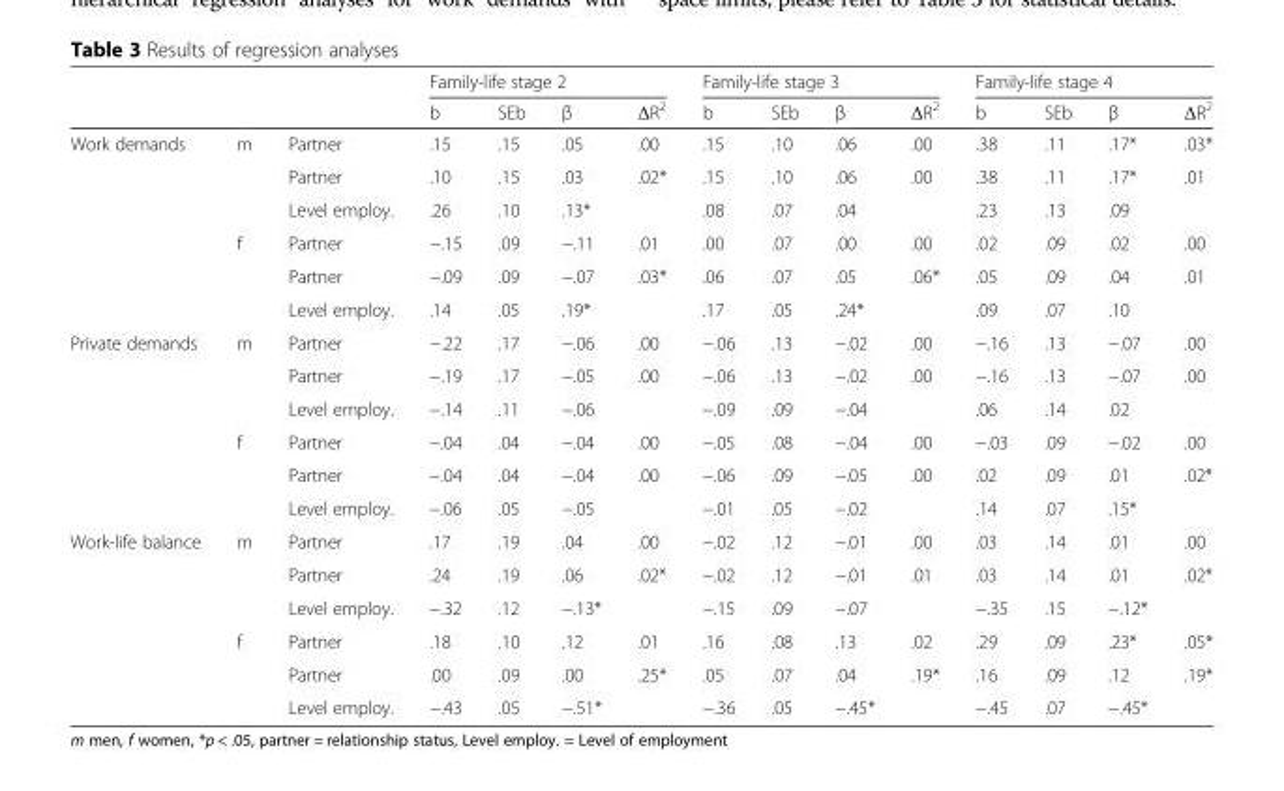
<table><thead><tr><td rowspan="2"></td><td rowspan="2"></td><td rowspan="2"></td><td colspan="4">Family-life stage 2</td><td colspan="4">Family-life stage 3</td><td colspan="4">Family-life stage 4</td></tr><tr><td>b</td><td>SEb</td><td>β</td><td>ΔR<sup>2</sup></td><td>b</td><td>SEb</td><td>β</td><td>ΔR<sup>2</sup></td><td>b</td><td>SEb</td><td>β</td><td>ΔR<sup>2</sup></td></tr></thead><tbody><tr><td rowspan="6">Work demands</td><td>m</td><td>Partner</td><td>.15</td><td>.15</td><td>.05</td><td>.00</td><td>.15</td><td>.10</td><td>.06</td><td>.00</td><td>.38</td><td>.11</td><td>.17*</td><td>.03*</td></tr><tr><td></td><td>Partner</td><td>.10</td><td>.15</td><td>.03</td><td>.02*</td><td>.15</td><td>.10</td><td>.06</td><td>.00</td><td>.38</td><td>.11</td><td>.17*</td><td>.01</td></tr><tr><td></td><td>Level employ.</td><td>.26</td><td>.10</td><td>.13*</td><td></td><td>.08</td><td>.07</td><td>.04</td><td></td><td>.23</td><td>.13</td><td>.09</td><td></td></tr><tr><td>f</td><td>Partner</td><td>−.15</td><td>.09</td><td>−.11</td><td>.01</td><td>.00</td><td>.07</td><td>.00</td><td>.00</td><td>.02</td><td>.09</td><td>.02</td><td>.00</td></tr><tr><td></td><td>Partner</td><td>−.09</td><td>.09</td><td>−.07</td><td>.03*</td><td>.06</td><td>.07</td><td>.05</td><td>.06*</td><td>.05</td><td>.09</td><td>.04</td><td>.01</td></tr><tr><td></td><td>Level employ.</td><td>.14</td><td>.05</td><td>.19*</td><td></td><td>.17</td><td>.05</td><td>.24*</td><td></td><td>.09</td><td>.07</td><td>.10</td><td></td></tr><tr><td rowspan="6">Private demands</td><td>m</td><td>Partner</td><td>−.22</td><td>.17</td><td>−.06</td><td>.00</td><td>−.06</td><td>.13</td><td>−.02</td><td>.00</td><td>−.16</td><td>.13</td><td>−.07</td><td>.00</td></tr><tr><td></td><td>Partner</td><td>−.19</td><td>.17</td><td>−.05</td><td>.00</td><td>−.06</td><td>.13</td><td>−.02</td><td>.00</td><td>−.16</td><td>.13</td><td>−.07</td><td>.00</td></tr><tr><td></td><td>Level employ.</td><td>−.14</td><td>.11</td><td>−.06</td><td></td><td>−.09</td><td>.09</td><td>−.04</td><td></td><td>.06</td><td>.14</td><td>.02</td><td></td></tr><tr><td>f</td><td>Partner</td><td>−.04</td><td>.04</td><td>−.04</td><td>.00</td><td>−.05</td><td>.08</td><td>−.04</td><td>.00</td><td>−.03</td><td>.09</td><td>−.02</td><td>.00</td></tr><tr><td></td><td>Partner</td><td>−.04</td><td>.04</td><td>−.04</td><td>.00</td><td>−.06</td><td>.09</td><td>−.05</td><td>.00</td><td>.02</td><td>.09</td><td>.01</td><td>.02*</td></tr><tr><td></td><td>Level employ.</td><td>−.06</td><td>.05</td><td>−.05</td><td></td><td>−.01</td><td>.05</td><td>−.02</td><td></td><td>.14</td><td>.07</td><td>.15*</td><td></td></tr><tr><td rowspan="6">Work-life balance</td><td>m</td><td>Partner</td><td>.17</td><td>.19</td><td>.04</td><td>.00</td><td>−.02</td><td>.12</td><td>−.01</td><td>.00</td><td>.03</td><td>.14</td><td>.01</td><td>.00</td></tr><tr><td></td><td>Partner</td><td>.24</td><td>.19</td><td>.06</td><td>.02*</td><td>−.02</td><td>.12</td><td>−.01</td><td>.01</td><td>.03</td><td>.14</td><td>.01</td><td>.02*</td></tr><tr><td></td><td>Level employ.</td><td>−.32</td><td>.12</td><td>−.13*</td><td></td><td>−.15</td><td>.09</td><td>−.07</td><td></td><td>−.35</td><td>.15</td><td>−.12*</td><td></td></tr><tr><td>f</td><td>Partner</td><td>.18</td><td>.10</td><td>.12</td><td>.01</td><td>.16</td><td>.08</td><td>.13</td><td>.02</td><td>.29</td><td>.09</td><td>.23*</td><td>.05*</td></tr><tr><td></td><td>Partner</td><td>.00</td><td>.09</td><td>.00</td><td>.25*</td><td>.05</td><td>.07</td><td>.04</td><td>.19*</td><td>.16</td><td>.09</td><td>.12</td><td>.19*</td></tr><tr><td></td><td>Level employ.</td><td>−.43</td><td>.05</td><td>−.51*</td><td></td><td>−.36</td><td>.05</td><td>−.45*</td><td></td><td>−.45</td><td>.07</td><td>−.45*</td><td></td></tr></tbody></table>